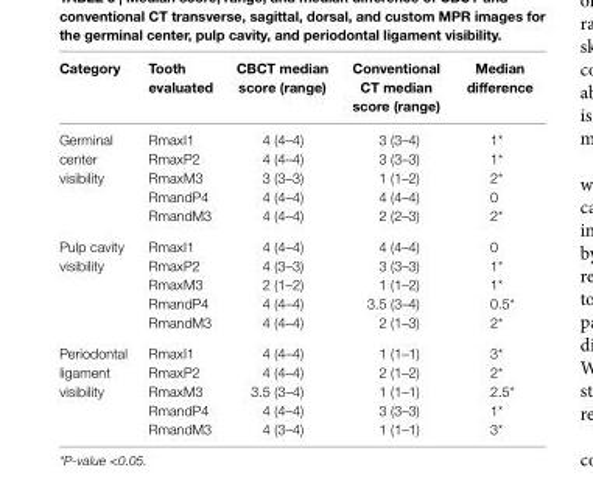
<table><thead><tr><td>category</td><td>Tooth evaluated</td><td>cBcT median score (range)</td><td>conventional cT median score (range)</td><td>Median difference</td></tr></thead><tbody><tr><td rowspan="5">Germinal center visibility</td><td>RmaxI1</td><td>4 (4–4)</td><td>3 (3–4)</td><td>1*</td></tr><tr><td>RmaxP2</td><td>4 (4–4)</td><td>3 (3–3)</td><td>1*</td></tr><tr><td>RmaxM3</td><td>3 (3–3)</td><td>1 (1–2)</td><td>2*</td></tr><tr><td>RmandP4</td><td>4 (4–4)</td><td>4 (4–4)</td><td>0</td></tr><tr><td>RmandM3</td><td>4 (4–4)</td><td>2 (2–3)</td><td>2*</td></tr><tr><td rowspan="5">Pulp cavity visibility</td><td>RmaxI1</td><td>4 (4–4)</td><td>4 (4–4)</td><td>0</td></tr><tr><td>RmaxP2</td><td>4 (3–3)</td><td>3 (3–3)</td><td>1*</td></tr><tr><td>RmaxM3</td><td>2 (1–2)</td><td>1 (1–2)</td><td>1*</td></tr><tr><td>RmandP4</td><td>4 (4–4)</td><td>3.5 (3–4)</td><td>0.5*</td></tr><tr><td>RmandM3</td><td>4 (4–4)</td><td>2 (1–3)</td><td>2*</td></tr><tr><td rowspan="5">Periodontal ligament visibility</td><td>RmaxI1</td><td>4 (4–4)</td><td>1 (1–1)</td><td>3*</td></tr><tr><td>RmaxP2</td><td>4 (4–4)</td><td>2 (1–2)</td><td>2*</td></tr><tr><td>RmaxM3</td><td>3.5 (3–4)</td><td>1 (1–1)</td><td>2.5*</td></tr><tr><td>RmandP4</td><td>4 (4–4)</td><td>3 (3–3)</td><td>1*</td></tr><tr><td>RmandM3</td><td>4 (3–4)</td><td>1 (1–1)</td><td>3*</td></tr></tbody></table>